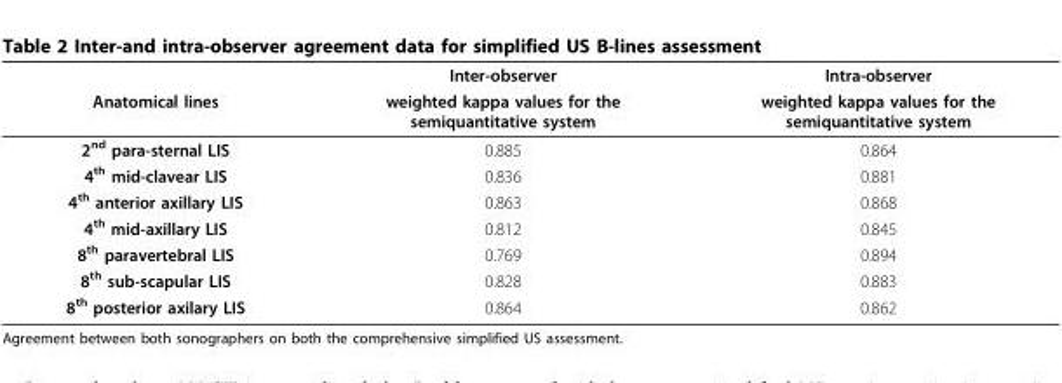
<table><thead><tr><td rowspan="2">Anatomical lines</td><td rowspan="2">Inter-observer weighted kappa values for the semiquantitative system</td><td rowspan="2">Intra-observer weighted kappa values for the semiquantitative system</td></tr><tr></tr></thead><tbody><tr><td>2<sup>nd</sup> para-sternal LIS</td><td>0.885</td><td>0.864</td></tr><tr><td>4<sup>th</sup> mid-clavear LIS</td><td>0.836</td><td>0.881</td></tr><tr><td>4<sup>th</sup> anterior axillary LIS</td><td>0.863</td><td>0.868</td></tr><tr><td>4<sup>th</sup> mid-axillary LIS</td><td>0.812</td><td>0.845</td></tr><tr><td>8<sup>th</sup> paravertebral LIS</td><td>0.769</td><td>0.894</td></tr><tr><td>8<sup>th</sup> sub-scapular LIS</td><td>0.828</td><td>0.883</td></tr><tr><td>8<sup>th</sup> posterior axilary LIS</td><td>0.864</td><td>0.862</td></tr></tbody></table>